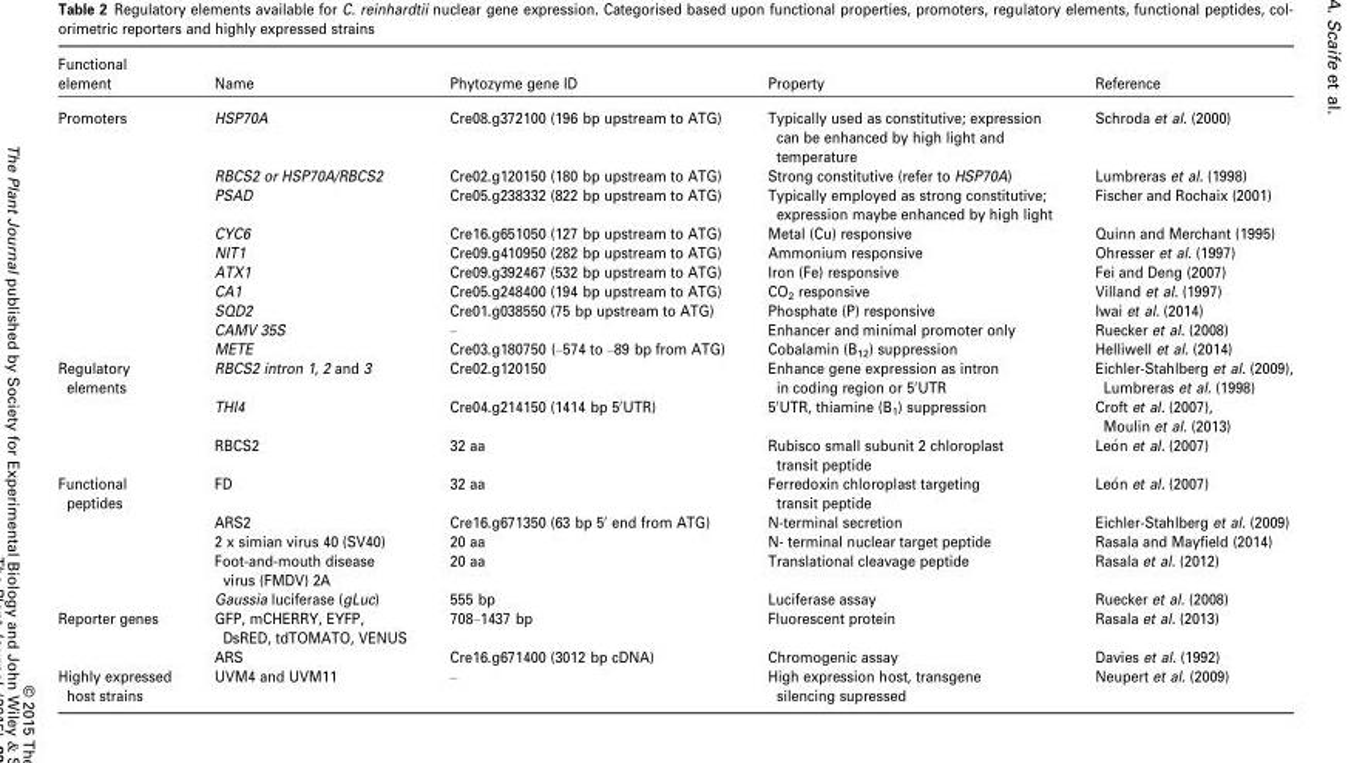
<table><thead><tr><td>Functional element</td><td>Name</td><td>Phytozyme gene ID</td><td>Property</td><td>Reference</td></tr></thead><tbody><tr><td rowspan="10">Promoters</td><td>HSP70A</td><td>Cre08.g372100 (196 bp upstream to ATG)</td><td>Typically used as constitutive; expression can be enhanced by high light and temperature</td><td>Schroda et al. (2000)</td></tr><tr><td>RBCS2 or HSP70A/RBCS2</td><td>Cre02.g120150 (180 bp upstream to ATG)</td><td>Strong constitutive (refer to HSP70A)</td><td>Lumbreras et al. (1998)</td></tr><tr><td>PSAD</td><td>Cre05.g238332 (822 bp upstream to ATG)</td><td>Typically employed as strong constitutive; expression maybe enhanced by high light</td><td>Fischer and Rochaix (2001)</td></tr><tr><td>CYC6</td><td>Cre16.g651050 (127 bp upstream to ATG)</td><td>Metal (Cu) responsive</td><td>Quinn and Merchant (1995)</td></tr><tr><td>NIT1</td><td>Cre09.g410950 (282 bp upstream to ATG)</td><td>Ammonium responsive</td><td>Ohresser et al. (1997)</td></tr><tr><td>ATX1</td><td>Cre09.g392467 (532 bp upstream to ATG)</td><td>Iron (Fe) responsive</td><td>Fei and Deng (2007)</td></tr><tr><td>CA1</td><td>Cre05.g248400 (194 bp upstream to ATG)</td><td>CO<sub>2</sub> responsive</td><td>Villand et al. (1997)</td></tr><tr><td>SQD2</td><td>Cre01.g038550 (75 bp upstream to ATG)</td><td>Phosphate (P) responsive</td><td>Iwai et al. (2014)</td></tr><tr><td>CAMV 35S</td><td>–</td><td>Enhancer and minimal promoter only</td><td>Ruecker et al. (2008)</td></tr><tr><td>METE</td><td>Cre03.g180750 (–574 to –89 bp from ATG)</td><td>Cobalamin (B<sub>12</sub>) suppression</td><td>Helliwell et al. (2014)</td></tr><tr><td rowspan="3">Regulatory elements</td><td>RBCS2 intron 1, 2 and 3</td><td>Cre02.g120150</td><td>Enhance gene expression as intron in coding region or 5′UTR</td><td>Eichler-Stahlberg et al. (2009), Lumbreras et al. (1998)</td></tr><tr><td>THI4</td><td>Cre04.g214150 (1414 bp 5′UTR)</td><td>5′UTR, thiamine (B<sub>1</sub>) suppression</td><td>Croft et al. (2007), Moulin et al. (2013)</td></tr><tr><td>RBCS2</td><td>32 aa</td><td>Rubisco small subunit 2 chloroplast transit peptide</td><td>Le�on et al. (2007)</td></tr><tr><td rowspan="5">Functional peptides</td><td>FD</td><td>32 aa</td><td>Ferredoxin chloroplast targeting transit peptide</td><td>Le�on et al. (2007)</td></tr><tr><td>ARS2</td><td>Cre16.g671350 (63 bp 5′ end from ATG)</td><td>N-terminal secretion</td><td>Eichler-Stahlberg et al. (2009)</td></tr><tr><td>2 x simian virus 40 (SV40)</td><td>20 aa</td><td>N- terminal nuclear target peptide</td><td>Rasala and Mayfield (2014)</td></tr><tr><td>Foot-and-mouth disease virus (FMDV) 2A</td><td>20 aa</td><td>Translational cleavage peptide</td><td>Rasala et al. (2012)</td></tr><tr><td>Gaussia luciferase (gLuc)</td><td>555 bp</td><td>Luciferase assay</td><td>Ruecker et al. (2008)</td></tr><tr><td rowspan="2">Reporter genes</td><td>GFP, mCHERRY, EYFP, DsRED, tdTOMATO, VENUS</td><td>708–1437 bp</td><td>Fluorescent protein</td><td>Rasala et al. (2013)</td></tr><tr><td>ARS</td><td>Cre16.g671400 (3012 bp cDNA)</td><td>Chromogenic assay</td><td>Davies et al. (1992)</td></tr><tr><td>Highly expressed host strains</td><td>UVM4 and UVM11</td><td>–</td><td>High expression host, transgene silencing supressed</td><td>Neupert et al. (2009)</td></tr></tbody></table>